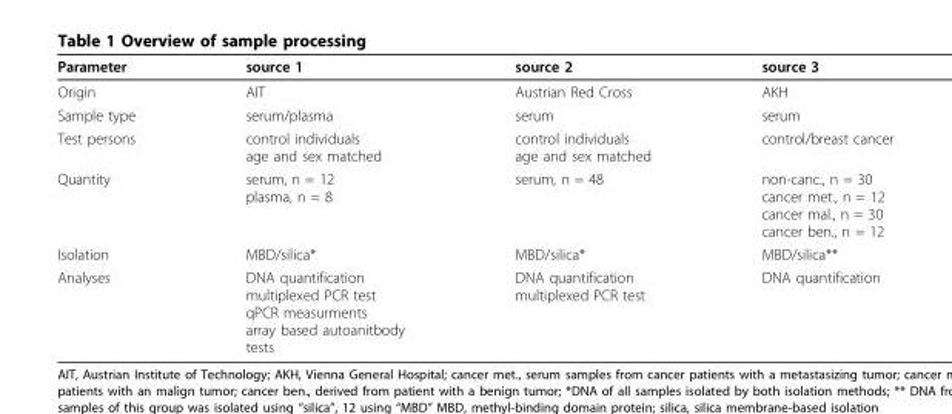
<table><thead><tr><td>Parameter</td><td>source 1</td><td>source 2</td><td>source 3</td></tr></thead><tbody><tr><td>Origin</td><td>AIT</td><td>Austrian Red Cross</td><td>AKH</td></tr><tr><td>Sample type</td><td>serum/plasma</td><td>serum</td><td>serum</td></tr><tr><td>Test persons</td><td>control individuals age and sex matched</td><td>control individuals age and sex matched</td><td>control/breast cancer</td></tr><tr><td>Quantity</td><td>serum, n = 12 plasma, n = 8</td><td>serum, n = 48</td><td>non-canc., n = 30 cancer met., n = 12 cancer mal., n = 30 cancer ben., n = 12</td></tr><tr><td>Isolation</td><td>MBD/silica*</td><td>MBD/silica*</td><td>MBD/silica**</td></tr><tr><td>Analyses</td><td>DNA quantification multiplexed PCR test qPCR measurments array based autoanitbody tests</td><td>DNA quantification multiplexed PCR test</td><td>DNA quantification</td></tr></tbody></table>